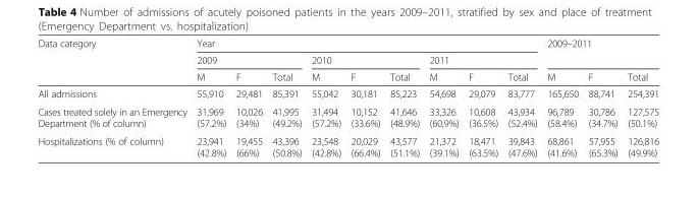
<table><thead><tr><td rowspan="3">Data category</td><td colspan="9">Year</td><td rowspan="2" colspan="3">2009–2011</td></tr><tr><td colspan="3">2009</td><td colspan="3">2010</td><td colspan="3">2011</td></tr><tr><td>M</td><td>F</td><td>Total</td><td>M</td><td>F</td><td>Total</td><td>M</td><td>F</td><td>Total</td><td>M</td><td>F</td><td>Total</td></tr></thead><tbody><tr><td>All admissions</td><td>55,910</td><td>29,481</td><td>85,391</td><td>55,042</td><td>30,181</td><td>85,223</td><td>54,698</td><td>29,079</td><td>83,777</td><td>165,650</td><td>88,741</td><td>254,391</td></tr><tr><td>Cases treated solely in an Emergency Department (% of column)</td><td>31,969 (57.2%)</td><td>10,026 (34%)</td><td>41,995 (49.2%)</td><td>31,494 (57.2%)</td><td>10,152 (33.6%)</td><td>41,646 (48.9%)</td><td>33,326 (60,9%)</td><td>10,608 (36.5%)</td><td>43,934 (52.4%)</td><td>96,789 (58.4%)</td><td>30,786 (34.7%)</td><td>127,575 (50.1%)</td></tr><tr><td>Hospitalizations (% of column)</td><td>23,941 (42.8%)</td><td>19,455 (66%)</td><td>43,396 (50.8%)</td><td>23,548 (42.8%)</td><td>20,029 (66.4%)</td><td>43,577 (51.1%)</td><td>21,372 (39.1%)</td><td>18,471 (63.5%)</td><td>39,843 (47.6%)</td><td>68,861 (41.6%)</td><td>57,955 (65.3%)</td><td>126,816 (49.9%)</td></tr></tbody></table>